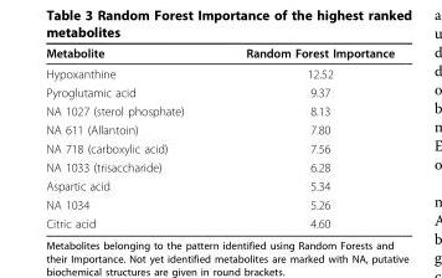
<table><thead><tr><td>Metabolite</td><td>Random Forest Importance</td></tr></thead><tbody><tr><td>Hypoxanthine</td><td>12.52</td></tr><tr><td>Pyroglutamic acid</td><td>9.37</td></tr><tr><td>NA 1027 (sterol phosphate)</td><td>8.13</td></tr><tr><td>NA 611 (Allantoin)</td><td>7.80</td></tr><tr><td>NA 718 (carboxylic acid)</td><td>7.56</td></tr><tr><td>NA 1033 (trisaccharide)</td><td>6.28</td></tr><tr><td>Aspartic acid</td><td>5.34</td></tr><tr><td>NA 1034</td><td>5.26</td></tr><tr><td>Citric acid</td><td>4.60</td></tr></tbody></table>